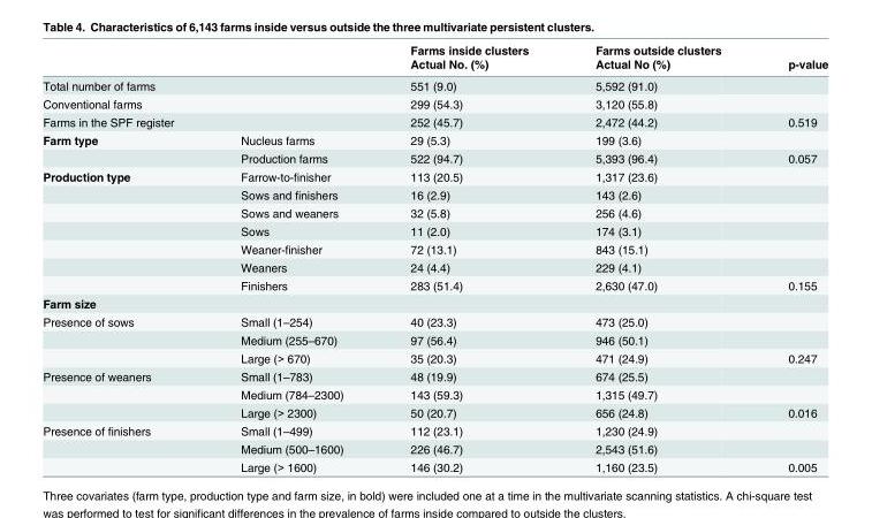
<table><thead><tr><td rowspan="2"></td><td rowspan="2"></td><td rowspan="2">Farms inside clusters Actual No. (%)</td><td rowspan="2">Farms outside clusters Actual No (%)</td><td rowspan="2">p-value</td></tr><tr></tr></thead><tbody><tr><td>Total number of farms</td><td></td><td>551 (9.0)</td><td>5,592 (91.0)</td><td></td></tr><tr><td>Conventional farms</td><td></td><td>299 (54.3)</td><td>3,120 (55.8)</td><td></td></tr><tr><td>Farms in the SPF register</td><td></td><td>252 (45.7)</td><td>2,472 (44.2)</td><td>0.519</td></tr><tr><td rowspan="2">Farm type</td><td>Nucleus farms</td><td>29 (5.3)</td><td>199 (3.6)</td><td></td></tr><tr><td>Production farms</td><td>522 (94.7)</td><td>5,393 (96.4)</td><td>0.057</td></tr><tr><td rowspan="7">Production type</td><td>Farrow-to-finisher</td><td>113 (20.5)</td><td>1,317 (23.6)</td><td></td></tr><tr><td>Sows and finishers</td><td>16 (2.9)</td><td>143 (2.6)</td><td></td></tr><tr><td>Sows and weaners</td><td>32 (5.8)</td><td>256 (4.6)</td><td></td></tr><tr><td>Sows</td><td>11 (2.0)</td><td>174 (3.1)</td><td></td></tr><tr><td>Weaner-finisher</td><td>72 (13.1)</td><td>843 (15.1)</td><td></td></tr><tr><td>Weaners</td><td>24 (4.4)</td><td>229 (4.1)</td><td></td></tr><tr><td>Finishers</td><td>283 (51.4)</td><td>2,630 (47.0)</td><td>0.155</td></tr><tr><td colspan="5">Farm size</td></tr><tr><td rowspan="3">Presence of sows</td><td>Small (1–254)</td><td>40 (23.3)</td><td>473 (25.0)</td><td></td></tr><tr><td>Medium (255–670)</td><td>97 (56.4)</td><td>946 (50.1)</td><td></td></tr><tr><td>Large (&gt; 670)</td><td>35 (20.3)</td><td>471 (24.9)</td><td>0.247</td></tr><tr><td rowspan="3">Presence of weaners</td><td>Small (1–783)</td><td>48 (19.9)</td><td>674 (25.5)</td><td></td></tr><tr><td>Medium (784–2300)</td><td>143 (59.3)</td><td>1,315 (49.7)</td><td></td></tr><tr><td>Large (&gt; 2300)</td><td>50 (20.7)</td><td>656 (24.8)</td><td>0.016</td></tr><tr><td rowspan="3">Presence of finishers</td><td>Small (1–499)</td><td>112 (23.1)</td><td>1,230 (24.9)</td><td></td></tr><tr><td>Medium (500–1600)</td><td>226 (46.7)</td><td>2,543 (51.6)</td><td></td></tr><tr><td>Large (&gt; 1600)</td><td>146 (30.2)</td><td>1,160 (23.5)</td><td>0.005</td></tr></tbody></table>